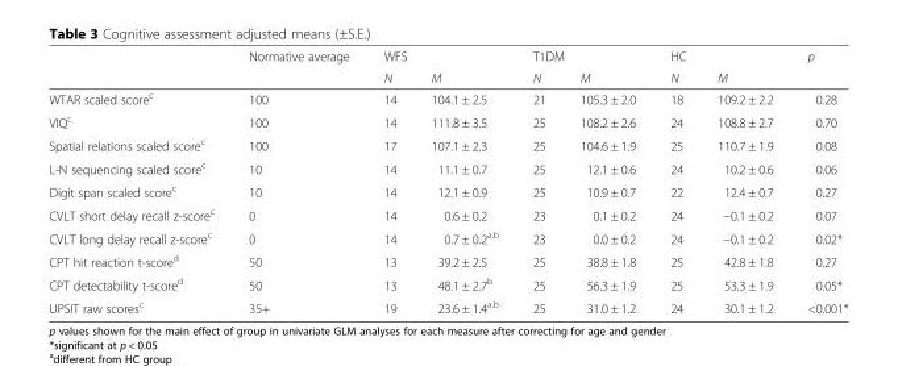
<table><thead><tr><td rowspan="2"></td><td rowspan="2">Normative average</td><td colspan="2">WFS</td><td colspan="2">T1DM</td><td colspan="2">HC</td><td rowspan="2">p</td></tr><tr><td>N</td><td>M</td><td>N</td><td>M</td><td>N</td><td>M</td></tr></thead><tbody><tr><td>WTAR scaled score<sup>c</sup></td><td>100</td><td>14</td><td>104.1 ± 2.5</td><td>21</td><td>105.3 ± 2.0</td><td>18</td><td>109.2 ± 2.2</td><td>0.28</td></tr><tr><td>VIQ<sup>c</sup></td><td>100</td><td>14</td><td>111.8 ± 3.5</td><td>25</td><td>108.2 ± 2.6</td><td>24</td><td>108.8 ± 2.7</td><td>0.70</td></tr><tr><td>Spatial relations scaled score<sup>c</sup></td><td>100</td><td>17</td><td>107.1 ± 2.3</td><td>25</td><td>104.6 ± 1.9</td><td>25</td><td>110.7 ± 1.9</td><td>0.08</td></tr><tr><td>L-N sequencing scaled score<sup>c</sup></td><td>10</td><td>14</td><td>11.1 ± 0.7</td><td>25</td><td>12.1 ± 0.6</td><td>24</td><td>10.2 ± 0.6</td><td>0.06</td></tr><tr><td>Digit span scaled score<sup>c</sup></td><td>10</td><td>14</td><td>12.1 ± 0.9</td><td>25</td><td>10.9 ± 0.7</td><td>22</td><td>12.4 ± 0.7</td><td>0.27</td></tr><tr><td>CVLT short delay recall z-score<sup>c</sup></td><td>0</td><td>14</td><td>0.6 ± 0.2</td><td>23</td><td>0.1 ± 0.2</td><td>24</td><td>−0.1 ± 0.2</td><td>0.07</td></tr><tr><td>CVLT long delay recall z-score<sup>c</sup></td><td>0</td><td>14</td><td>0.7 ± 0.2<sup>a,b</sup></td><td>23</td><td>0.0 ± 0.2</td><td>24</td><td>−0.1 ± 0.2</td><td>0.02*</td></tr><tr><td>CPT hit reaction t-score<sup>d</sup></td><td>50</td><td>13</td><td>39.2 ± 2.5</td><td>25</td><td>38.8 ± 1.8</td><td>25</td><td>42.8 ± 1.8</td><td>0.27</td></tr><tr><td>CPT detectability t-score<sup>d</sup></td><td>50</td><td>13</td><td>48.1 ± 2.7<sup>b</sup></td><td>25</td><td>56.3 ± 1.9</td><td>25</td><td>53.3 ± 1.9</td><td>0.05*</td></tr><tr><td>UPSIT raw scores<sup>c</sup></td><td>35+</td><td>19</td><td>23.6 ± 1.4<sup>a,b</sup></td><td>25</td><td>31.0 ± 1.2</td><td>24</td><td>30.1 ± 1.2</td><td>&lt;0.001*</td></tr></tbody></table>